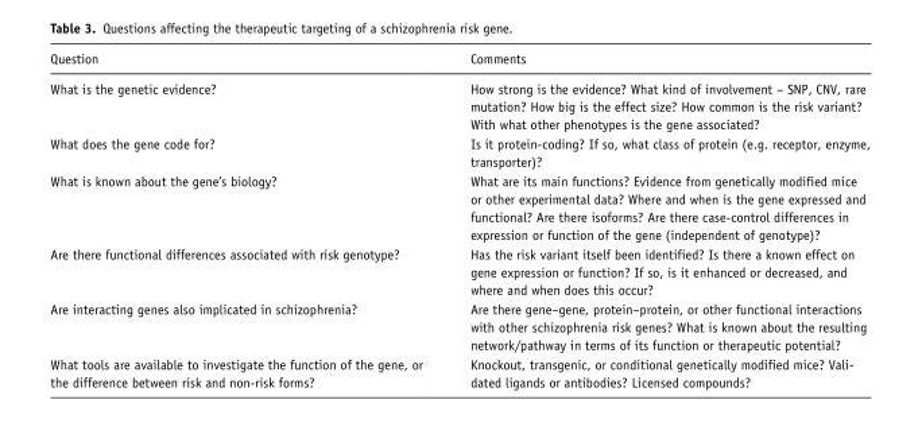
<table><thead><tr><td>Question</td><td>Comments</td></tr></thead><tbody><tr><td>What is the genetic evidence?</td><td>How strong is the evidence? What kind of involvement – SNP, CNV, rare mutation? How big is the effect size? How common is the risk variant? With what other phenotypes is the gene associated?</td></tr><tr><td>What does the gene code for?</td><td>Is it protein-coding? If so, what class of protein (e.g. receptor, enzyme, transporter)?</td></tr><tr><td>What is known about the gene’s biology?</td><td>What are its main functions? Evidence from genetically modified mice or other experimental data? Where and when is the gene expressed and functional? Are there isoforms? Are there case-control differences in expression or function of the gene (independent of genotype)?</td></tr><tr><td>Are there functional differences associated with risk genotype?</td><td>Has the risk variant itself been identified? Is there a known effect on gene expression or function? If so, is it enhanced or decreased, and where and when does this occur?</td></tr><tr><td>Are interacting genes also implicated in schizophrenia?</td><td>Are there gene–gene, protein–protein, or other functional interactions with other schizophrenia risk genes? What is known about the resulting network/pathway in terms of its function or therapeutic potential?</td></tr><tr><td>What tools are available to investigate the function of the gene, or the difference between risk and non-risk forms?</td><td>Knockout, transgenic, or conditional genetically modified mice? Vali- dated ligands or antibodies? Licensed compounds?</td></tr></tbody></table>